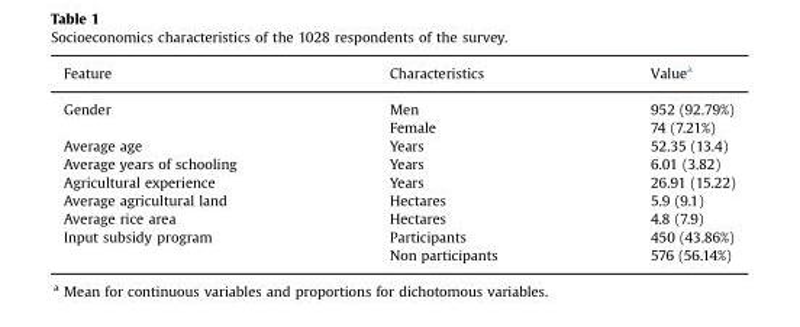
<table><thead><tr><td>Feature</td><td>Characteristics</td><td>Value<sup>a</sup></td></tr></thead><tbody><tr><td rowspan="2">Gender</td><td>Men</td><td>952 (92.79%)</td></tr><tr><td>Female</td><td>74 (7.21%)</td></tr><tr><td>Average age</td><td>Years</td><td>52.35 (13.4)</td></tr><tr><td>Average years of schooling</td><td>Years</td><td>6.01 (3.82)</td></tr><tr><td>Agricultural experience</td><td>Years</td><td>26.91 (15.22)</td></tr><tr><td>Average agricultural land</td><td>Hectares</td><td>5.9 (9.1)</td></tr><tr><td>Average rice area</td><td>Hectares</td><td>4.8 (7.9)</td></tr><tr><td rowspan="2">Input subsidy program</td><td>Participants</td><td>450 (43.86%)</td></tr><tr><td>Non participants</td><td>576 (56.14%)</td></tr></tbody></table>